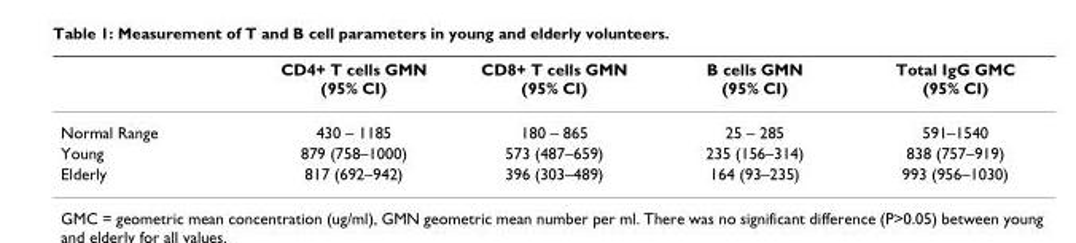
<table><thead><tr><td></td><td>CD4+ T cells GMN (95% CI)</td><td>CD8+ T cells GMN (95% CI)</td><td>B cells GMN (95% CI)</td><td>Total IgG GMC (95% CI)</td></tr></thead><tbody><tr><td>Normal Range</td><td>430 – 1185</td><td>180 – 865</td><td>25 – 285</td><td>591–1540</td></tr><tr><td>Young</td><td>879 (758–1000)</td><td>573 (487–659)</td><td>235 (156–314)</td><td>838 (757–919)</td></tr><tr><td>Elderly</td><td>817 (692–942)</td><td>396 (303–489)</td><td>164 (93–235)</td><td>993 (956–1030)</td></tr></tbody></table>